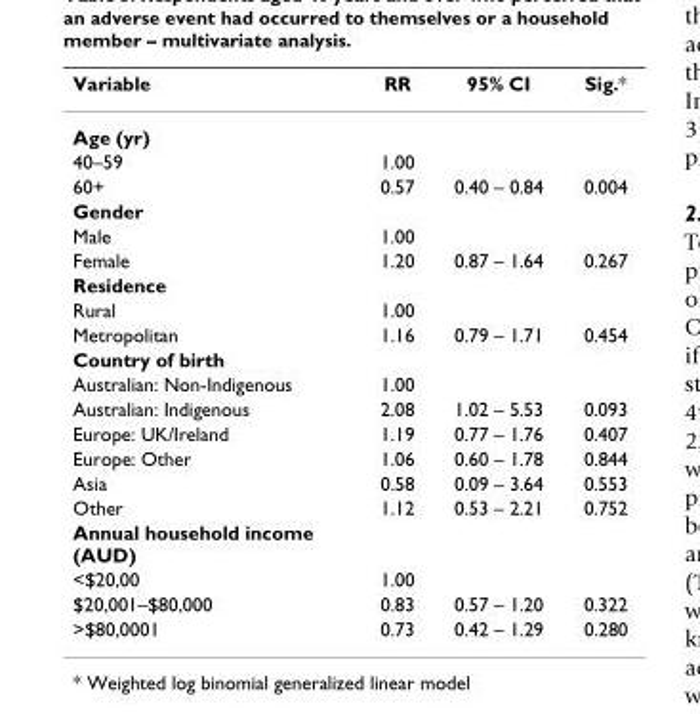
<table><thead><tr><td>Variable</td><td>RR</td><td>95% CI</td><td>Sig.*</td></tr></thead><tbody><tr><td colspan="4">Age (yr)</td></tr><tr><td>40–59</td><td>1.00</td><td></td><td></td></tr><tr><td>60+</td><td>0.57</td><td>0.40 – 0.84</td><td>0.004</td></tr><tr><td colspan="4">Gender</td></tr><tr><td>Male</td><td>1.00</td><td></td><td></td></tr><tr><td>Female</td><td>1.20</td><td>0.87 – 1.64</td><td>0.267</td></tr><tr><td colspan="4">Residence</td></tr><tr><td>Rural</td><td>1.00</td><td></td><td></td></tr><tr><td>Metropolitan</td><td>1.16</td><td>0.79 – 1.71</td><td>0.454</td></tr><tr><td colspan="4">Country of birth</td></tr><tr><td>Australian: Non-Indigenous</td><td>1.00</td><td></td><td></td></tr><tr><td>Australian: Indigenous</td><td>2.08</td><td>1.02 – 5.53</td><td>0.093</td></tr><tr><td>Europe: UK/Ireland</td><td>1.19</td><td>0.77 – 1.76</td><td>0.407</td></tr><tr><td>Europe: Other</td><td>1.06</td><td>0.60 – 1.78</td><td>0.844</td></tr><tr><td>Asia</td><td>0.58</td><td>0.09 – 3.64</td><td>0.553</td></tr><tr><td>Other</td><td>1.12</td><td>0.53 – 2.21</td><td>0.752</td></tr><tr><td colspan="4">Annual household income (AUD)</td></tr><tr><td>&lt;$20,00</td><td>1.00</td><td></td><td></td></tr><tr><td>$20,001–$80,000</td><td>0.83</td><td>0.57 – 1.20</td><td>0.322</td></tr><tr><td>&gt;$80,0001</td><td>0.73</td><td>0.42 – 1.29</td><td>0.280</td></tr></tbody></table>